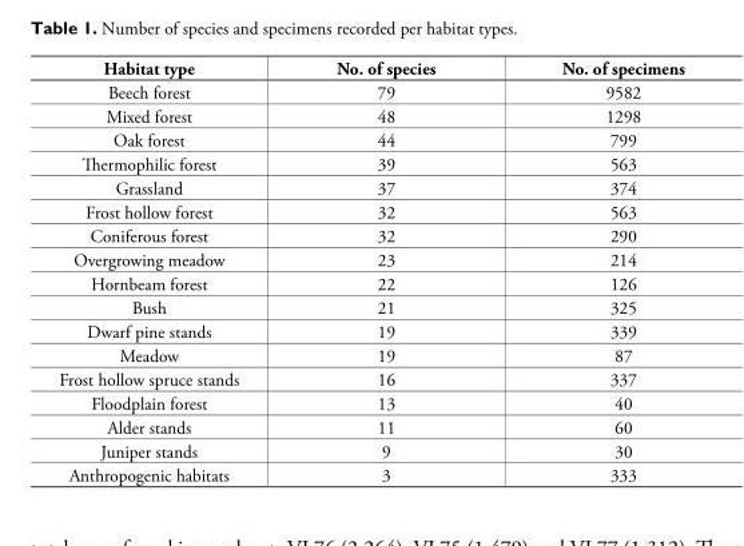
<table><thead><tr><td>Habitat type</td><td>No. of species</td><td>No. of specimens</td></tr></thead><tbody><tr><td>Beech forest</td><td>79</td><td>9582</td></tr><tr><td>Mixed forest</td><td>48</td><td>1298</td></tr><tr><td>Oak forest</td><td>44</td><td>799</td></tr><tr><td>Thermophilic forest</td><td>39</td><td>563</td></tr><tr><td>Grassland</td><td>37</td><td>374</td></tr><tr><td>Frost hollow forest</td><td>32</td><td>563</td></tr><tr><td>Coniferous forest</td><td>32</td><td>290</td></tr><tr><td>Overgrowing meadow</td><td>23</td><td>214</td></tr><tr><td>Hornbeam forest</td><td>22</td><td>126</td></tr><tr><td>Bush</td><td>21</td><td>325</td></tr><tr><td>Dwarf pine stands</td><td>19</td><td>339</td></tr><tr><td>Meadow</td><td>19</td><td>87</td></tr><tr><td>Frost hollow spruce stands</td><td>16</td><td>337</td></tr><tr><td>Floodplain forest</td><td>13</td><td>40</td></tr><tr><td>Alder stands</td><td>11</td><td>60</td></tr><tr><td>Juniper stands</td><td>9</td><td>30</td></tr><tr><td>Anthropogenic habitats</td><td>3</td><td>333</td></tr></tbody></table>